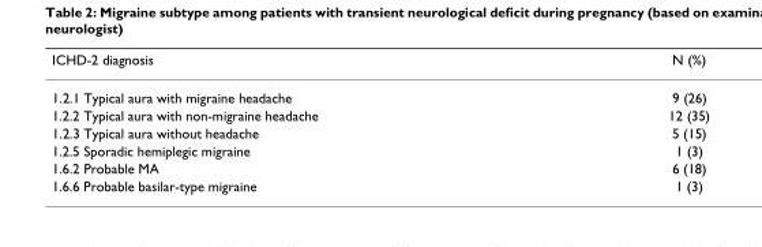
<table><thead><tr><td>ICHD-2 diagnosis</td><td>N (%)</td></tr></thead><tbody><tr><td>1.2.1 Typical aura with migraine headache</td><td>9 (26)</td></tr><tr><td>1.2.2 Typical aura with non-migraine headache</td><td>12 (35)</td></tr><tr><td>1.2.3 Typical aura without headache</td><td>5 (15)</td></tr><tr><td>1.2.5 Sporadic hemiplegic migraine</td><td>1 (3)</td></tr><tr><td>1.6.2 Probable MA</td><td>6 (18)</td></tr><tr><td>1.6.6 Probable basilar-type migraine</td><td>1 (3)</td></tr></tbody></table>